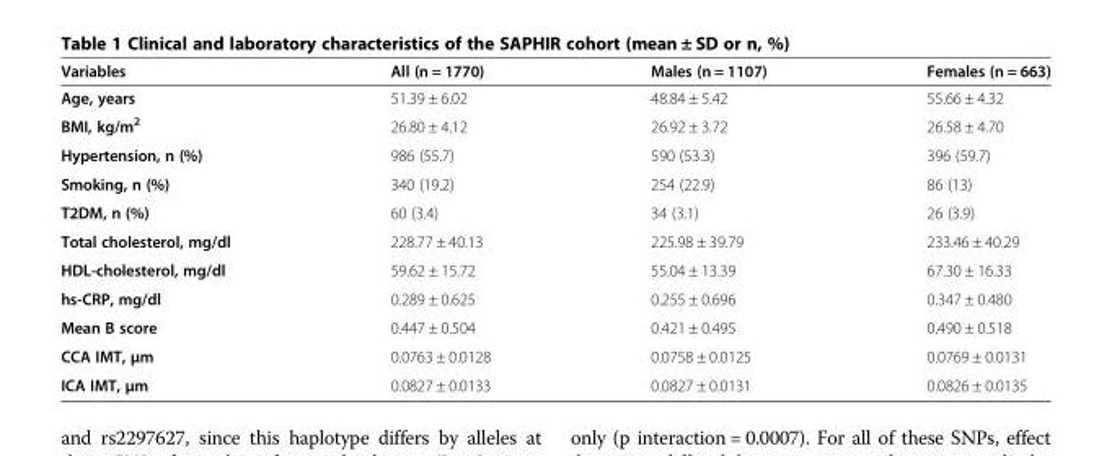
<table><thead><tr><td>Variables</td><td>All (n = 1770)</td><td>Males (n = 1107)</td><td>Females (n = 663)</td></tr></thead><tbody><tr><td>Age, years</td><td>51.39 ± 6.02</td><td>48.84 ± 5.42</td><td>55.66 ± 4.32</td></tr><tr><td>BMI, kg/m<sup>2</sup></td><td>26.80 ± 4.12</td><td>26.92 ± 3.72</td><td>26.58 ± 4.70</td></tr><tr><td>Hypertension, n (%)</td><td>986 (55.7)</td><td>590 (53.3)</td><td>396 (59.7)</td></tr><tr><td>Smoking, n (%)</td><td>340 (19.2)</td><td>254 (22.9)</td><td>86 (13)</td></tr><tr><td>T2DM, n (%)</td><td>60 (3.4)</td><td>34 (3.1)</td><td>26 (3.9)</td></tr><tr><td>Total cholesterol, mg/dl</td><td>228.77 ± 40.13</td><td>225.98 ± 39.79</td><td>233.46 ± 40.29</td></tr><tr><td>HDL-cholesterol, mg/dl</td><td>59.62 ± 15.72</td><td>55.04 ± 13.39</td><td>67.30 ± 16.33</td></tr><tr><td>hs-CRP, mg/dl</td><td>0.289 ± 0.625</td><td>0.255 ± 0.696</td><td>0.347 ± 0.480</td></tr><tr><td>Mean B score</td><td>0.447 ± 0.504</td><td>0.421 ± 0.495</td><td>0.490 ± 0.518</td></tr><tr><td>CCA IMT, μm</td><td>0.0763 ± 0.0128</td><td>0.0758 ± 0.0125</td><td>0.0769 ± 0.0131</td></tr><tr><td>ICA IMT, μm</td><td>0.0827 ± 0.0133</td><td>0.0827 ± 0.0131</td><td>0.0826 ± 0.0135</td></tr></tbody></table>